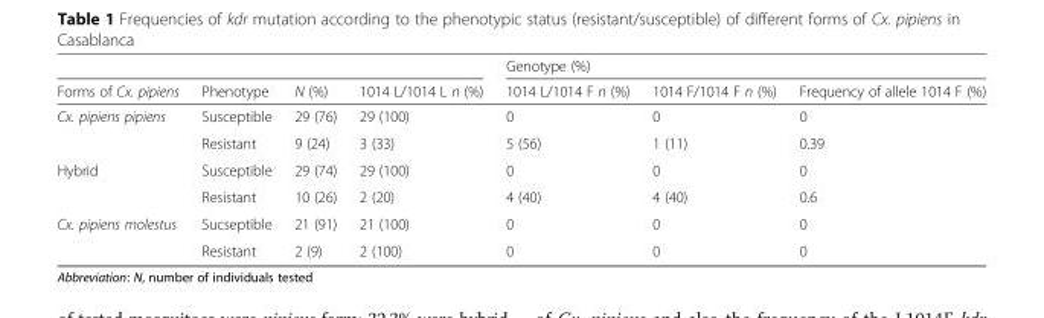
<table><thead><tr><td rowspan="2">Forms of Cx. pipiens</td><td rowspan="2">Phenotype</td><td rowspan="2">N (%)</td><td rowspan="2">1014 L/1014 L n (%)</td><td colspan="3">Genotype (%)</td></tr><tr><td>1014 L/1014 F n (%)</td><td>1014 F/1014 F n (%)</td><td>Frequency of allele 1014 F (%)</td></tr></thead><tbody><tr><td rowspan="2">Cx. pipiens pipiens</td><td>Susceptible</td><td>29 (76)</td><td>29 (100)</td><td>0</td><td>0</td><td>0</td></tr><tr><td>Resistant</td><td>9 (24)</td><td>3 (33)</td><td>5 (56)</td><td>1 (11)</td><td>0.39</td></tr><tr><td rowspan="2">Hybrid</td><td>Susceptible</td><td>29 (74)</td><td>29 (100)</td><td>0</td><td>0</td><td>0</td></tr><tr><td>Resistant</td><td>10 (26)</td><td>2 (20)</td><td>4 (40)</td><td>4 (40)</td><td>0.6</td></tr><tr><td rowspan="2">Cx. pipiens molestus</td><td>Sucseptible</td><td>21 (91)</td><td>21 (100)</td><td>0</td><td>0</td><td>0</td></tr><tr><td>Resistant</td><td>2 (9)</td><td>2 (100)</td><td>0</td><td>0</td><td>0</td></tr></tbody></table>